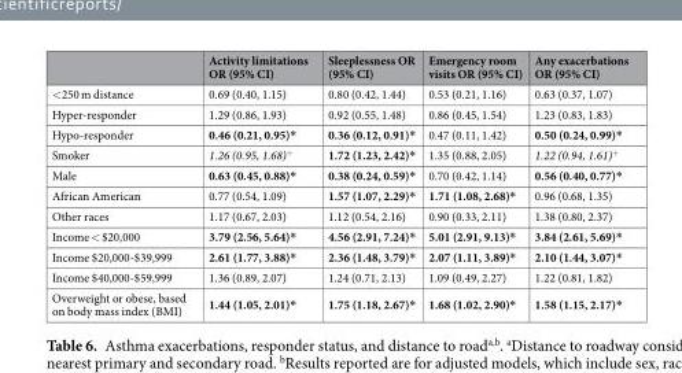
<table><thead><tr><td></td><td>Activity limitations OR (95% CI)</td><td>Sleeplessness OR (95% CI)</td><td>Emergency room visits OR (95% CI)</td><td>Any exacerbations OR (95% CI)</td></tr></thead><tbody><tr><td>&lt;250 m distance</td><td>0.69 (0.40, 1.15)</td><td>0.80 (0.42, 1.44)</td><td>0.53 (0.21, 1.16)</td><td>0.63 (0.37, 1.07)</td></tr><tr><td>Hyper-responder</td><td>1.29 (0.86, 1.93)</td><td>0.92 (0.55, 1.48)</td><td>0.86 (0.45, 1.54)</td><td>1.23 (0.83, 1.83)</td></tr><tr><td>Hypo-responder</td><td>0.46 (0.21, 0.95)*</td><td>0.36 (0.12, 0.91)*</td><td>0.47 (0.11, 1.42)</td><td>0.50 (0.24, 0.99)*</td></tr><tr><td>Smoker</td><td>1.26 (0.95, 1.68)<sup>+</sup></td><td>1.72 (1.23, 2.42)*</td><td>1.35 (0.88, 2.05)</td><td>1.22 (0.94, 1.61)<sup>+</sup></td></tr><tr><td>Male</td><td>0.63 (0.45, 0.88)*</td><td>0.38 (0.24, 0.59)*</td><td>0.70 (0.42, 1.14)</td><td>0.56 (0.40, 0.77)*</td></tr><tr><td>African American</td><td>0.77 (0.54, 1.09)</td><td>1.57 (1.07, 2.29)*</td><td>1.71 (1.08, 2.68)*</td><td>0.96 (0.68, 1.35)</td></tr><tr><td>Other races</td><td>1.17 (0.67, 2.03)</td><td>1.12 (0.54, 2.16)</td><td>0.90 (0.33, 2.11)</td><td>1.38 (0.80, 2.37)</td></tr><tr><td>Income &lt; $20,000</td><td>3.79 (2.56, 5.64)*</td><td>4.56 (2.91, 7.24)*</td><td>5.01 (2.91, 9.13)*</td><td>3.84 (2.61, 5.69)*</td></tr><tr><td>Income $20,000-$39,999</td><td>2.61 (1.77, 3.88)*</td><td>2.36 (1.48, 3.79)*</td><td>2.07 (1.11, 3.89)*</td><td>2.10 (1.44, 3.07)*</td></tr><tr><td>Income $40,000-$59,999</td><td>1.36 (0.89, 2.07)</td><td>1.24 (0.71, 2.13)</td><td>1.09 (0.49, 2.27)</td><td>1.22 (0.81, 1.82)</td></tr><tr><td>Overweight or obese, based on body mass index (BMI)</td><td>1.44 (1.05, 2.01)*</td><td>1.75 (1.18, 2.67)*</td><td>1.68 (1.02, 2.90)*</td><td>1.58 (1.15, 2.17)*</td></tr></tbody></table>